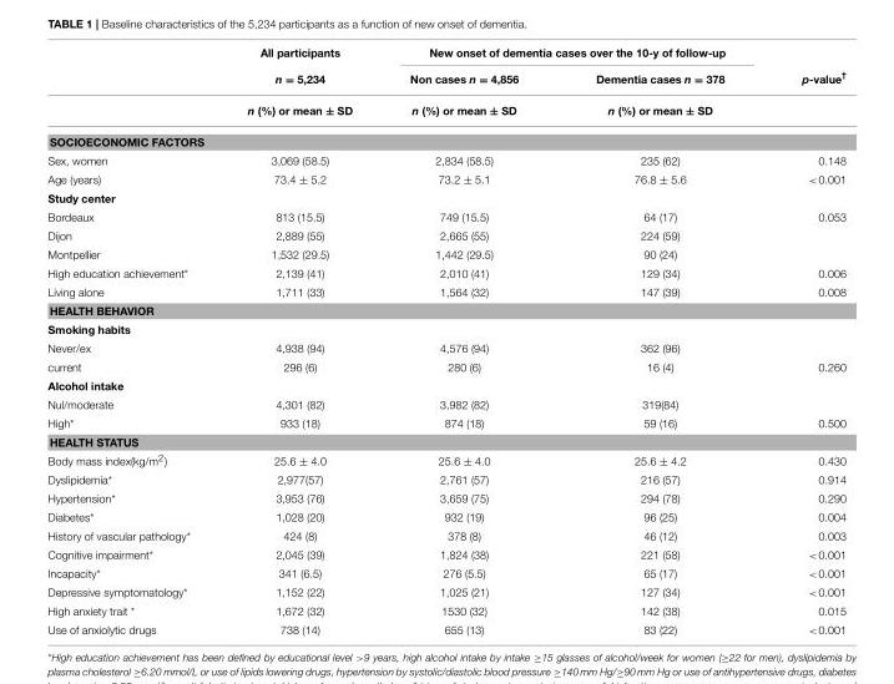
<table><thead><tr><td rowspan="2"></td><td rowspan="2">All participants n = 5,234</td><td colspan="2">New onset of dementia cases over the 10-y of follow-up</td><td rowspan="2">p-value<sup>†</sup></td></tr><tr><td>Non cases n = 4,856</td><td>Dementia cases n = 378</td></tr></thead><tbody><tr><td></td><td>n (%) or mean ± SD</td><td>n (%) or mean ± SD</td><td>n (%) or mean ± SD</td><td></td></tr><tr><td colspan="5">SOCIOECONOMIC FACTORS</td></tr><tr><td>Sex, women</td><td>3,069 (58.5)</td><td>2,834 (58.5)</td><td>235 (62)</td><td>0.148</td></tr><tr><td>Age (years)</td><td>73.4 ± 5.2</td><td>73.2 ± 5.1</td><td>76.8 ± 5.6</td><td>&lt;0.001</td></tr><tr><td colspan="5">Study center</td></tr><tr><td>Bordeaux</td><td>813 (15.5)</td><td>749 (15.5)</td><td>64 (17)</td><td>0.053</td></tr><tr><td>Dijon</td><td>2,889 (55)</td><td>2,665 (55)</td><td>224 (59)</td><td></td></tr><tr><td>Montpellier</td><td>1,532 (29.5)</td><td>1,442 (29.5)</td><td>90 (24)</td><td></td></tr><tr><td>High education achievement*</td><td>2,139 (41)</td><td>2,010 (41)</td><td>129 (34)</td><td>0.006</td></tr><tr><td>Living alone</td><td>1,711 (33)</td><td>1,564 (32)</td><td>147 (39)</td><td>0.008</td></tr><tr><td colspan="5">HEALTH BEHAVIOR</td></tr><tr><td colspan="5">Smoking habits</td></tr><tr><td>Never/ex</td><td>4,938 (94)</td><td>4,576 (94)</td><td>362 (96)</td><td></td></tr><tr><td>current</td><td>296 (6)</td><td>280 (6)</td><td>16 (4)</td><td>0.260</td></tr><tr><td colspan="5">Alcohol intake</td></tr><tr><td>Nul/moderate</td><td>4,301 (82)</td><td>3,982 (82)</td><td>319(84)</td><td></td></tr><tr><td>High*</td><td>933 (18)</td><td>874 (18)</td><td>59 (16)</td><td>0.500</td></tr><tr><td colspan="5">HEALTH STATUS</td></tr><tr><td>Body mass index(kg/m<sup>2</sup>)</td><td>25.6 ± 4.0</td><td>25.6 ± 4.0</td><td>25.6 ± 4.2</td><td>0.430</td></tr><tr><td>Dyslipidemia*</td><td>2,977(57)</td><td>2,761 (57)</td><td>216 (57)</td><td>0.914</td></tr><tr><td>Hypertension*</td><td>3,953 (76)</td><td>3,659 (75)</td><td>294 (78)</td><td>0.290</td></tr><tr><td>Diabetes*</td><td>1,028 (20)</td><td>932 (19)</td><td>96 (25)</td><td>0.004</td></tr><tr><td>History of vascular pathology*</td><td>424 (8)</td><td>378 (8)</td><td>46 (12)</td><td>0.003</td></tr><tr><td>Cognitive impairment*</td><td>2,045 (39)</td><td>1,824 (38)</td><td>221 (58)</td><td>&lt;0.001</td></tr><tr><td>Incapacity*</td><td>341 (6.5)</td><td>276 (5.5)</td><td>65 (17)</td><td>&lt;0.001</td></tr><tr><td>Depressive symptomatology*</td><td>1,152 (22)</td><td>1,025 (21)</td><td>127 (34)</td><td>&lt;0.001</td></tr><tr><td>High anxiety trait *</td><td>1,672 (32)</td><td>1530 (32)</td><td>142 (38)</td><td>0.015</td></tr><tr><td>Use of anxiolytic drugs</td><td>738 (14)</td><td>655 (13)</td><td>83 (22)</td><td>&lt;0.001</td></tr></tbody></table>